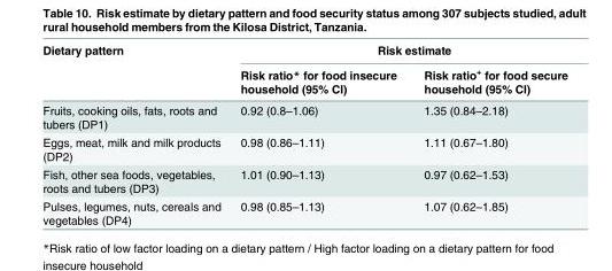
<table><thead><tr><td rowspan="2">Dietary pattern</td><td colspan="2">Risk estimate</td></tr><tr><td>Risk ratio* for food insecure household (95% CI)</td><td>Risk ratio<sup>+</sup> for food secure household (95% CI)</td></tr></thead><tbody><tr><td>Fruits, cooking oils, fats, roots and tubers (DP1)</td><td>0.92 (0.8–1.06)</td><td>1.35 (0.84–2.18)</td></tr><tr><td>Eggs, meat, milk and milk products (DP2)</td><td>0.98 (0.86–1.11)</td><td>1.11 (0.67–1.80)</td></tr><tr><td>Fish, other sea foods, vegetables, roots and tubers (DP3)</td><td>1.01 (0.90–1.13)</td><td>0.97 (0.62–1.53)</td></tr><tr><td>Pulses, legumes, nuts, cereals and vegetables (DP4)</td><td>0.98 (0.85–1.13)</td><td>1.07 (0.62–1.85)</td></tr></tbody></table>